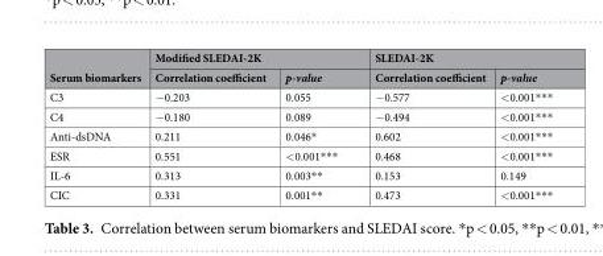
<table><thead><tr><td rowspan="2">Serum biomarkers</td><td colspan="2">Modified SLEDAI-2K</td><td colspan="2">SLEDAI-2K</td></tr><tr><td>Correlation coefficient</td><td>p-value</td><td>Correlation coefficient</td><td>p-value</td></tr></thead><tbody><tr><td>C3</td><td>−0.203</td><td>0.055</td><td>−0.577</td><td>&lt;0.001***</td></tr><tr><td>C4</td><td>−0.180</td><td>0.089</td><td>−0.494</td><td>&lt;0.001***</td></tr><tr><td>Anti-dsDNA</td><td>0.211</td><td>0.046*</td><td>0.602</td><td>&lt;0.001***</td></tr><tr><td>ESR</td><td>0.551</td><td>&lt;0.001***</td><td>0.468</td><td>&lt;0.001***</td></tr><tr><td>IL-6</td><td>0.313</td><td>0.003**</td><td>0.153</td><td>0.149</td></tr><tr><td>CIC</td><td>0.331</td><td>0.001**</td><td>0.473</td><td>&lt;0.001***</td></tr></tbody></table>